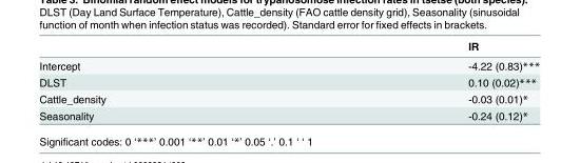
<table><thead><tr><td></td><td>IR</td></tr></thead><tbody><tr><td>Intercept</td><td>-4.22 (0.83)***</td></tr><tr><td>DLST</td><td>0.10 (0.02)***</td></tr><tr><td>Cattle_density</td><td>-0.03 (0.01)*</td></tr><tr><td>Seasonality</td><td>-0.24 (0.12)*</td></tr></tbody></table>